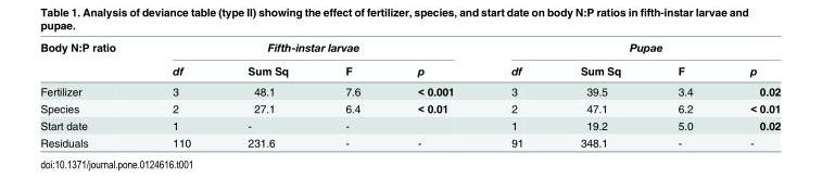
<table><thead><tr><td rowspan="2">Body N:P ratio</td><td colspan="4">Fifth-instar larvae</td><td colspan="4">Pupae</td></tr><tr><td>df</td><td>Sum Sq</td><td>F</td><td>p</td><td>df</td><td>Sum Sq</td><td>F</td><td>p</td></tr></thead><tbody><tr><td>Fertilizer</td><td>3</td><td>48.1</td><td>7.6</td><td>&lt; 0.001</td><td>3</td><td>39.5</td><td>3.4</td><td>0.02</td></tr><tr><td>Species</td><td>2</td><td>27.1</td><td>6.4</td><td>&lt; 0.01</td><td>2</td><td>47.1</td><td>6.2</td><td>&lt; 0.01</td></tr><tr><td>Start date</td><td>1</td><td>-</td><td>-</td><td></td><td>1</td><td>19.2</td><td>5.0</td><td>0.02</td></tr><tr><td>Residuals</td><td>110</td><td>231.6</td><td>-</td><td>-</td><td>91</td><td>348.1</td><td>-</td><td>-</td></tr></tbody></table>